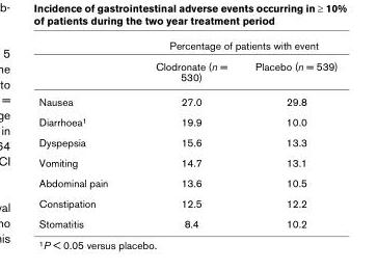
<table><thead><tr><td rowspan="2"></td><td colspan="2">Percentage of patients with event</td></tr><tr><td>Clodronate (n = 530)</td><td>Placebo (n = 539)</td></tr></thead><tbody><tr><td>Nausea</td><td>27.0</td><td>29.8</td></tr><tr><td>Diarrhoea1</td><td>19.9</td><td>10.0</td></tr><tr><td>Dyspepsia</td><td>15.6</td><td>13.3</td></tr><tr><td>Vomiting</td><td>14.7</td><td>13.1</td></tr><tr><td>Abdominal pain</td><td>13.6</td><td>10.5</td></tr><tr><td>Constipation</td><td>12.5</td><td>12.2</td></tr><tr><td>Stomatitis</td><td>8.4</td><td>10.2</td></tr></tbody></table>